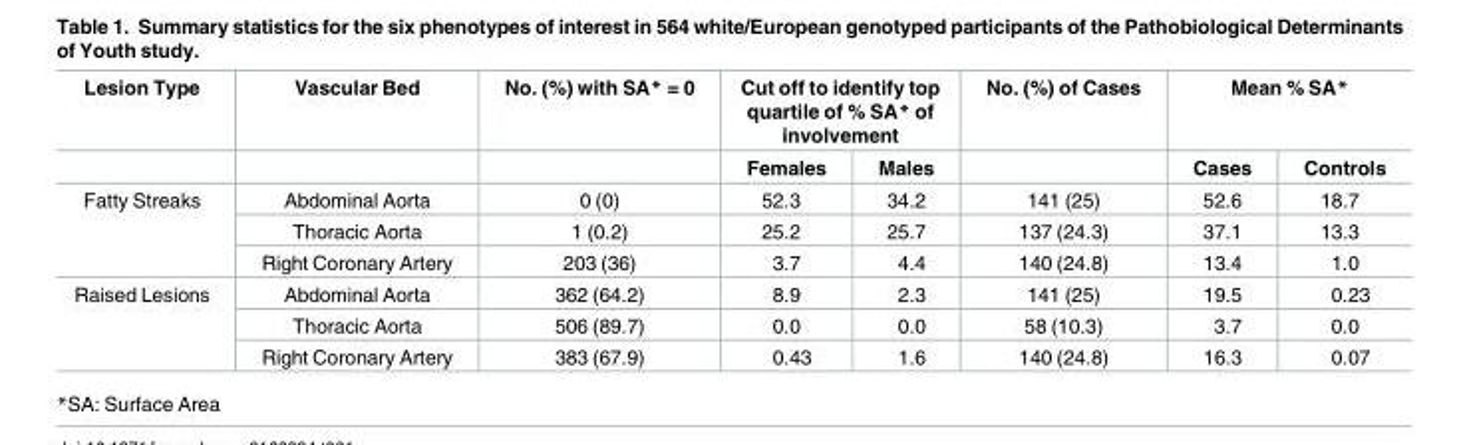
<table><thead><tr><td rowspan="2">Lesion Type</td><td rowspan="2">Vascular Bed</td><td rowspan="2">No. (%) with SA* = 0</td><td colspan="2">Cut off to identify top quartile of % SA* of involvement</td><td rowspan="2">No. (%) of Cases</td><td colspan="2">Mean % SA*</td></tr><tr><td>Females</td><td>Males</td><td>Cases</td><td>Controls</td></tr></thead><tbody><tr><td rowspan="3">Fatty Streaks</td><td>Abdominal Aorta</td><td>0 (0)</td><td>52.3</td><td>34.2</td><td>141 (25)</td><td>52.6</td><td>18.7</td></tr><tr><td>Thoracic Aorta</td><td>1 (0.2)</td><td>25.2</td><td>25.7</td><td>137 (24.3)</td><td>37.1</td><td>13.3</td></tr><tr><td>Right Coronary Artery</td><td>203 (36)</td><td>3.7</td><td>4.4</td><td>140 (24.8)</td><td>13.4</td><td>1.0</td></tr><tr><td rowspan="3">Raised Lesions</td><td>Abdominal Aorta</td><td>362 (64.2)</td><td>8.9</td><td>2.3</td><td>141 (25)</td><td>19.5</td><td>0.23</td></tr><tr><td>Thoracic Aorta</td><td>506 (89.7)</td><td>0.0</td><td>0.0</td><td>58 (10.3)</td><td>3.7</td><td>0.0</td></tr><tr><td>Right Coronary Artery</td><td>383 (67.9)</td><td>0.43</td><td>1.6</td><td>140 (24.8)</td><td>16.3</td><td>0.07</td></tr></tbody></table>